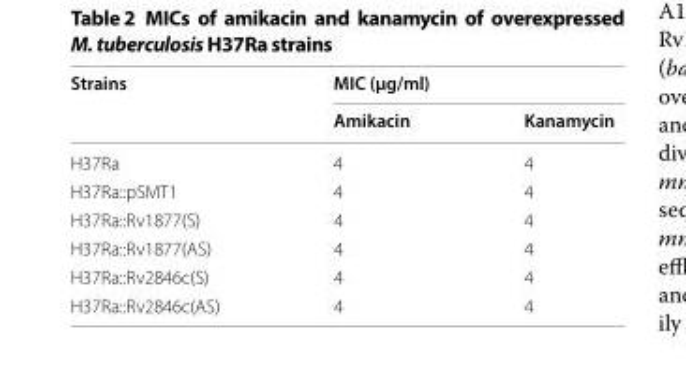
<table><thead><tr><td rowspan="2">Strains</td><td colspan="2">MIC (µg/ml)</td></tr><tr><td>Amikacin</td><td>Kanamycin</td></tr></thead><tbody><tr><td>H37Ra</td><td>4</td><td>4</td></tr><tr><td>H37Ra::pSMT1</td><td>4</td><td>4</td></tr><tr><td>H37Ra::Rv1877(S)</td><td>4</td><td>4</td></tr><tr><td>H37Ra::Rv1877(AS)</td><td>4</td><td>4</td></tr><tr><td>H37Ra::Rv2846c(S)</td><td>4</td><td>4</td></tr><tr><td>H37Ra::Rv2846c(AS)</td><td>4</td><td>4</td></tr></tbody></table>